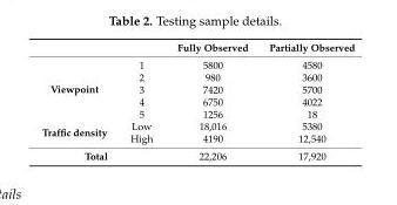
<table><thead><tr><td></td><td></td><td>Fully Observed</td><td>Partially Observed</td></tr></thead><tbody><tr><td rowspan="5">Viewpoint</td><td>1</td><td>5800</td><td>4580</td></tr><tr><td>2</td><td>980</td><td>3600</td></tr><tr><td>3</td><td>7420</td><td>5700</td></tr><tr><td>4</td><td>6750</td><td>4022</td></tr><tr><td>5</td><td>1256</td><td>18</td></tr><tr><td rowspan="2">Traffic density</td><td>Low</td><td>18,016</td><td>5380</td></tr><tr><td>High</td><td>4190</td><td>12,540</td></tr><tr><td colspan="2">Total</td><td>22,206</td><td>17,920</td></tr></tbody></table>